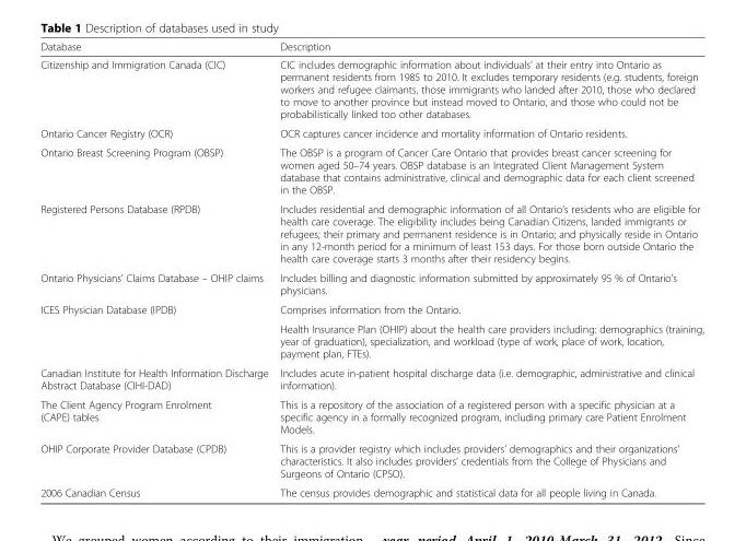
<table><thead><tr><td>Database</td><td>Description</td></tr></thead><tbody><tr><td>Citizenship and Immigration Canada (CIC)</td><td>CIC includes demographic information about individuals’ at their entry into Ontario as permanent residents from 1985 to 2010. It excludes temporary residents (e.g. students, foreign workers and refugee claimants, those immigrants who landed after 2010, those who declared to move to another province but instead moved to Ontario, and those who could not be probabilistically linked too other databases.</td></tr><tr><td>Ontario Cancer Registry (OCR)</td><td>OCR captures cancer incidence and mortality information of Ontario residents.</td></tr><tr><td>Ontario Breast Screening Program (OBSP)</td><td>The OBSP is a program of Cancer Care Ontario that provides breast cancer screening for women aged 50–74 years. OBSP database is an Integrated Client Management System database that contains administrative, clinical and demographic data for each client screened in the OBSP.</td></tr><tr><td>Registered Persons Database (RPDB)</td><td>Includes residential and demographic information of all Ontario’s residents who are eligible for health care coverage. The eligibility includes being Canadian Citizens, landed immigrants or refugees; their primary and permanent residence is in Ontario; and physically reside in Ontario in any 12-month period for a minimum of least 153 days. For those born outside Ontario the health care coverage starts 3 months after their residency begins.</td></tr><tr><td>Ontario Physicians’ Claims Database – OHIP claims</td><td>Includes billing and diagnostic information submitted by approximately 95 % of Ontario’s physicians.</td></tr><tr><td rowspan="2">ICES Physician Database (IPDB)</td><td>Comprises information from the Ontario.</td></tr><tr><td>Health Insurance Plan (OHIP) about the health care providers including: demographics (training, year of graduation), specialization, and workload (type of work, place of work, location, payment plan, FTEs).</td></tr><tr><td>Canadian Institute for Health Information Discharge Abstract Database (CIHI-DAD)</td><td>Includes acute in-patient hospital discharge data (i.e. demographic, administrative and clinical information).</td></tr><tr><td>The Client Agency Program Enrolment (CAPE) tables</td><td>This is a repository of the association of a registered person with a specific physician at a specific agency in a formally recognized program, including primary care Patient Enrolment Models.</td></tr><tr><td>OHIP Corporate Provider Database (CPDB)</td><td>This is a provider registry which includes providers’ demographics and their organizations’ characteristics. It also includes providers’ credentials from the College of Physicians and Surgeons of Ontario (CPSO).</td></tr><tr><td>2006 Canadian Census</td><td>The census provides demographic and statistical data for all people living in Canada.</td></tr></tbody></table>